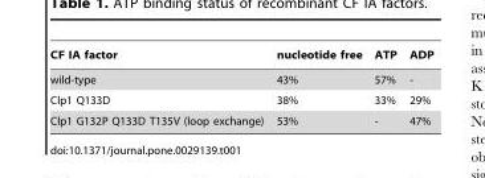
<table><thead><tr><td>CF IA factor</td><td>nucleotide free</td><td>ATP</td><td>ADP</td></tr></thead><tbody><tr><td>wild-type</td><td>43%</td><td>57%</td><td>-</td></tr><tr><td>Clp1 Q133D</td><td>38%</td><td>33%</td><td>29%</td></tr><tr><td>Clp1 G132P Q133D T135V (loop exchange)</td><td>53%</td><td>-</td><td>47%</td></tr></tbody></table>